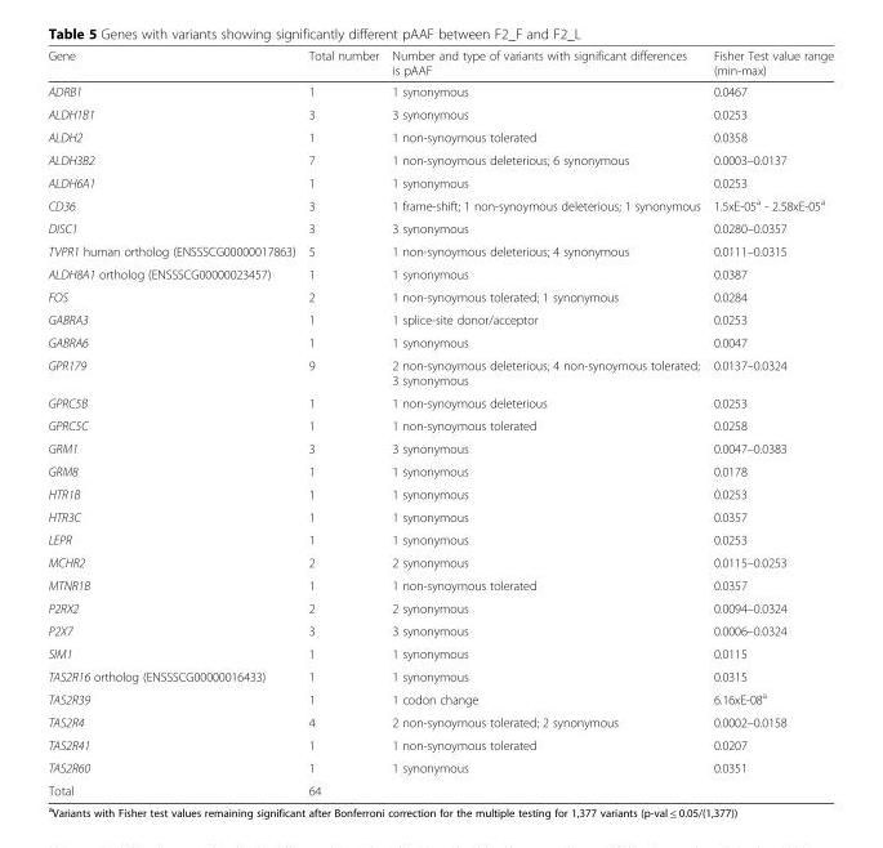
<table><thead><tr><td>Gene</td><td>Total number</td><td>Number and type of variants with significant differences is pAAF</td><td>Fisher Test value range (min-max)</td></tr></thead><tbody><tr><td>ADRB1</td><td>1</td><td>1 synonymous</td><td>0.0467</td></tr><tr><td>ALDH1B1</td><td>3</td><td>3 synonymous</td><td>0.0253</td></tr><tr><td>ALDH2</td><td>1</td><td>1 non-synoymous tolerated</td><td>0.0358</td></tr><tr><td>ALDH3B2</td><td>7</td><td>1 non-synoymous deleterious; 6 synonymous</td><td>0.0003–0.0137</td></tr><tr><td>ALDH6A1</td><td>1</td><td>1 synonymous</td><td>0.0253</td></tr><tr><td>CD36</td><td>3</td><td>1 frame-shift; 1 non-synoymous deleterious; 1 synonymous</td><td>1.5xE-05<sup>a</sup> - 2.58xE-05<sup>a</sup></td></tr><tr><td>DISC1</td><td>3</td><td>3 synonymous</td><td>0.0280–0.0357</td></tr><tr><td>TVPR1 human ortholog (ENSSSCG00000017863)</td><td>5</td><td>1 non-synoymous deleterious; 4 synonymous</td><td>0.0111–0.0315</td></tr><tr><td>ALDH8A1 ortholog (ENSSSCG00000023457)</td><td>1</td><td>1 synonymous</td><td>0.0387</td></tr><tr><td>FOS</td><td>2</td><td>1 non-synoymous tolerated; 1 synonymous</td><td>0.0284</td></tr><tr><td>GABRA3</td><td>1</td><td>1 splice-site donor/acceptor</td><td>0.0253</td></tr><tr><td>GABRA6</td><td>1</td><td>1 synonymous</td><td>0.0047</td></tr><tr><td>GPR179</td><td>9</td><td>2 non-synoymous deleterious; 4 non-synoymous tolerated; 3 synonymous</td><td>0.0137–0.0324</td></tr><tr><td>GPRC5B</td><td>1</td><td>1 non-synoymous deleterious</td><td>0.0253</td></tr><tr><td>GPRC5C</td><td>1</td><td>1 non-synoymous tolerated</td><td>0.0258</td></tr><tr><td>GRM1</td><td>3</td><td>3 synonymous</td><td>0.0047–0.0383</td></tr><tr><td>GRM8</td><td>1</td><td>1 synonymous</td><td>0.0178</td></tr><tr><td>HTR1B</td><td>1</td><td>1 synonymous</td><td>0.0253</td></tr><tr><td>HTR3C</td><td>1</td><td>1 synonymous</td><td>0.0357</td></tr><tr><td>LEPR</td><td>1</td><td>1 synonymous</td><td>0.0253</td></tr><tr><td>MCHR2</td><td>2</td><td>2 synonymous</td><td>0.0115–0.0253</td></tr><tr><td>MTNR1B</td><td>1</td><td>1 non-synoymous tolerated</td><td>0.0357</td></tr><tr><td>P2RX2</td><td>2</td><td>2 synonymous</td><td>0.0094–0.0324</td></tr><tr><td>P2X7</td><td>3</td><td>3 synonymous</td><td>0.0006–0.0324</td></tr><tr><td>SIM1</td><td>1</td><td>1 synonymous</td><td>0.0115</td></tr><tr><td>TAS2R16 ortholog (ENSSSCG00000016433)</td><td>1</td><td>1 synonymous</td><td>0.0315</td></tr><tr><td>TAS2R39</td><td>1</td><td>1 codon change</td><td>6.16xE-08<sup>a</sup></td></tr><tr><td>TAS2R4</td><td>4</td><td>2 non-synoymous tolerated; 2 synonymous</td><td>0.0002–0.0158</td></tr><tr><td>TAS2R41</td><td>1</td><td>1 non-synoymous tolerated</td><td>0.0207</td></tr><tr><td>TAS2R60</td><td>1</td><td>1 synonymous</td><td>0.0351</td></tr><tr><td>Total</td><td>64</td><td></td><td></td></tr></tbody></table>